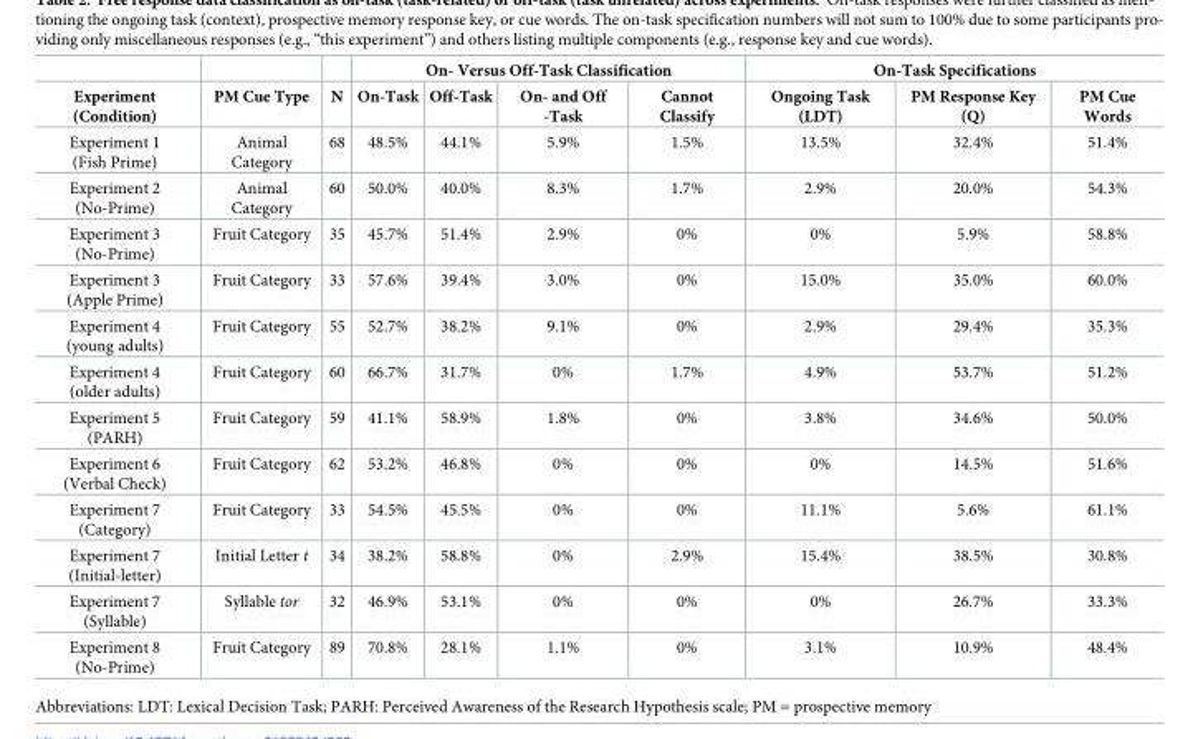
<table><thead><tr><td rowspan="2">Experiment (Condition)</td><td rowspan="2">PM Cue Type</td><td rowspan="2">N</td><td colspan="4">On- Versus Off-Task Classification</td><td colspan="3">On-Task Specifications</td></tr><tr><td>On-Task</td><td>Off-Task</td><td>On- and Off -Task</td><td>Cannot Classify</td><td>Ongoing Task (LDT)</td><td>PM Response Key (Q)</td><td>PM Cue Words</td></tr></thead><tbody><tr><td>Experiment 1 (Fish Prime)</td><td>Animal Category</td><td>68</td><td>48.5%</td><td>44.1%</td><td>5.9%</td><td>1.5%</td><td>13.5%</td><td>32.4%</td><td>51.4%</td></tr><tr><td>Experiment 2 (No-Prime)</td><td>Animal Category</td><td>60</td><td>50.0%</td><td>40.0%</td><td>8.3%</td><td>1.7%</td><td>2.9%</td><td>20.0%</td><td>54.3%</td></tr><tr><td>Experiment 3 (No-Prime)</td><td>Fruit Category</td><td>35</td><td>45.7%</td><td>51.4%</td><td>2.9%</td><td>0%</td><td>0%</td><td>5.9%</td><td>58.8%</td></tr><tr><td>Experiment 3 (Apple Prime)</td><td>Fruit Category</td><td>33</td><td>57.6%</td><td>39.4%</td><td>3.0%</td><td>0%</td><td>15.0%</td><td>35.0%</td><td>60.0%</td></tr><tr><td>Experiment 4 (young adults)</td><td>Fruit Category</td><td>55</td><td>52.7%</td><td>38.2%</td><td>9.1%</td><td>0%</td><td>2.9%</td><td>29.4%</td><td>35.3%</td></tr><tr><td>Experiment 4 (older adults)</td><td>Fruit Category</td><td>60</td><td>66.7%</td><td>31.7%</td><td>0%</td><td>1.7%</td><td>4.9%</td><td>53.7%</td><td>51.2%</td></tr><tr><td>Experiment 5 (PARH)</td><td>Fruit Category</td><td>59</td><td>41.1%</td><td>58.9%</td><td>1.8%</td><td>0%</td><td>3.8%</td><td>34.6%</td><td>50.0%</td></tr><tr><td>Experiment 6 (Verbal Check)</td><td>Fruit Category</td><td>62</td><td>53.2%</td><td>46.8%</td><td>0%</td><td>0%</td><td>0%</td><td>14.5%</td><td>51.6%</td></tr><tr><td>Experiment 7 (Category)</td><td>Fruit Category</td><td>33</td><td>54.5%</td><td>45.5%</td><td>0%</td><td>0%</td><td>11.1%</td><td>5.6%</td><td>61.1%</td></tr><tr><td>Experiment 7 (Initial-letter)</td><td>Initial Letter t</td><td>34</td><td>38.2%</td><td>58.8%</td><td>0%</td><td>2.9%</td><td>15.4%</td><td>38.5%</td><td>30.8%</td></tr><tr><td>Experiment 7 (Syllable)</td><td>Syllable tor</td><td>32</td><td>46.9%</td><td>53.1%</td><td>0%</td><td>0%</td><td>0%</td><td>26.7%</td><td>33.3%</td></tr><tr><td>Experiment 8 (No-Prime)</td><td>Fruit Category</td><td>89</td><td>70.8%</td><td>28.1%</td><td>1.1%</td><td>0%</td><td>3.1%</td><td>10.9%</td><td>48.4%</td></tr></tbody></table>